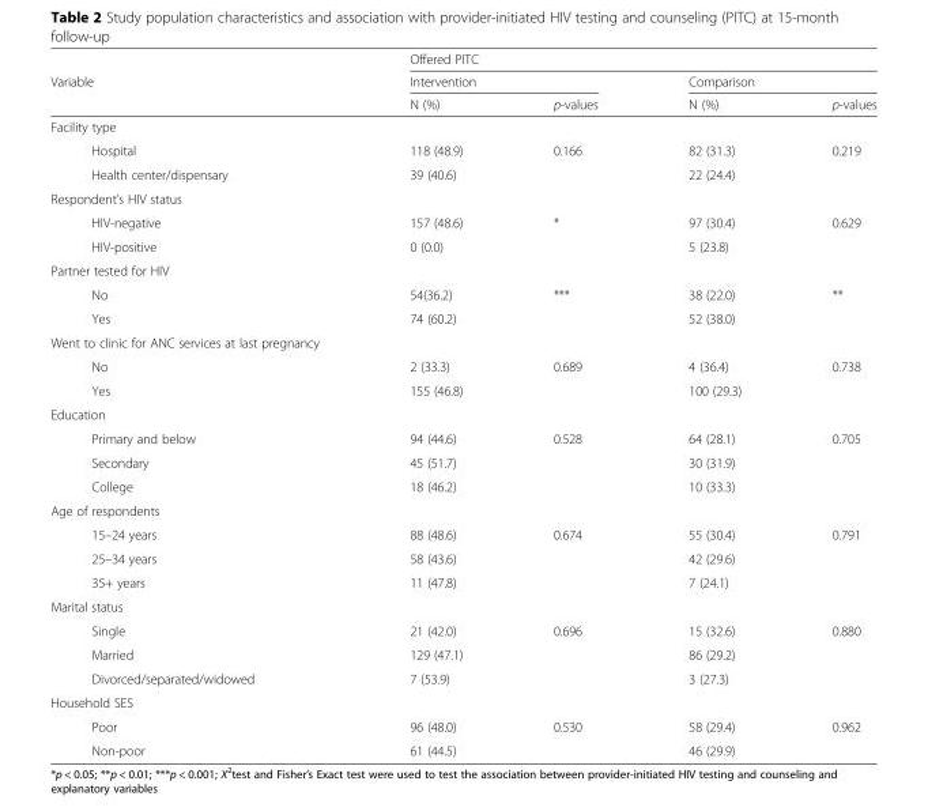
<table><thead><tr><td rowspan="3">Variable</td><td colspan="4">Offered PITC</td></tr><tr><td colspan="2">Intervention</td><td colspan="2">Comparison</td></tr><tr><td>N (%)</td><td>p-values</td><td>N (%)</td><td>p-values</td></tr></thead><tbody><tr><td colspan="5">Facility type</td></tr><tr><td>Hospital</td><td>118 (48.9)</td><td>0.166</td><td>82 (31.3)</td><td rowspan="2">0.219</td></tr><tr><td>Health center/dispensary</td><td>39 (40.6)</td><td></td><td>22 (24.4)</td></tr><tr><td colspan="5">Respondent’s HIV status</td></tr><tr><td>HIV-negative</td><td>157 (48.6)</td><td>*</td><td>97 (30.4)</td><td>0.629</td></tr><tr><td>HIV-positive</td><td>0 (0.0)</td><td></td><td>5 (23.8)</td><td></td></tr><tr><td colspan="5">Partner tested for HIV</td></tr><tr><td>No</td><td>54(36.2)</td><td rowspan="2">***</td><td>38 (22.0)</td><td rowspan="2">**</td></tr><tr><td>Yes</td><td>74 (60.2)</td><td>52 (38.0)</td></tr><tr><td colspan="5">Went to clinic for ANC services at last pregnancy</td></tr><tr><td>No</td><td>2 (33.3)</td><td>0.689</td><td>4 (36.4)</td><td>0.738</td></tr><tr><td>Yes</td><td>155 (46.8)</td><td></td><td>100 (29.3)</td><td></td></tr><tr><td colspan="5">Education</td></tr><tr><td>Primary and below</td><td>94 (44.6)</td><td rowspan="3">0.528</td><td>64 (28.1)</td><td rowspan="3">0.705</td></tr><tr><td>Secondary</td><td>45 (51.7)</td><td>30 (31.9)</td></tr><tr><td>College</td><td>18 (46.2)</td><td>10 (33.3)</td></tr><tr><td colspan="5">Age of respondents</td></tr><tr><td>15–24 years</td><td>88 (48.6)</td><td rowspan="3">0.674</td><td>55 (30.4)</td><td rowspan="3">0.791</td></tr><tr><td>25–34 years</td><td>58 (43.6)</td><td>42 (29.6)</td></tr><tr><td>35+ years</td><td>11 (47.8)</td><td>7 (24.1)</td></tr><tr><td colspan="5">Marital status</td></tr><tr><td>Single</td><td>21 (42.0)</td><td rowspan="3">0.696</td><td>15 (32.6)</td><td rowspan="3">0.880</td></tr><tr><td>Married</td><td>129 (47.1)</td><td>86 (29.2)</td></tr><tr><td>Divorced/separated/widowed</td><td>7 (53.9)</td><td>3 (27.3)</td></tr><tr><td colspan="5">Household SES</td></tr><tr><td>Poor</td><td>96 (48.0)</td><td>0.530</td><td>58 (29.4)</td><td rowspan="2">0.962</td></tr><tr><td>Non-poor</td><td>61 (44.5)</td><td></td><td>46 (29.9)</td></tr></tbody></table>